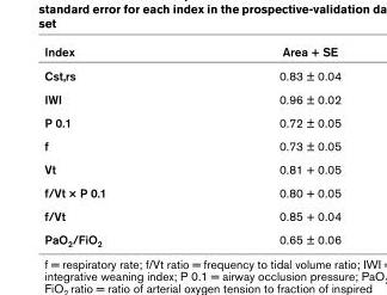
<table><thead><tr><td>Index</td><td>Area + SE</td></tr></thead><tbody><tr><td>Cst,rs</td><td>0.83 ± 0.04</td></tr><tr><td>IWI</td><td>0.96 ± 0.02</td></tr><tr><td>P 0.1</td><td>0.72 ± 0.05</td></tr><tr><td>f</td><td>0.73 ± 0.05</td></tr><tr><td>Vt</td><td>0.81 + 0.05</td></tr><tr><td>f/Vt × P 0.1</td><td>0.80 + 0.05</td></tr><tr><td>f/Vt</td><td>0.85 + 0.04</td></tr><tr><td>PaO2/FiO2</td><td>0.65 ± 0.06</td></tr></tbody></table>